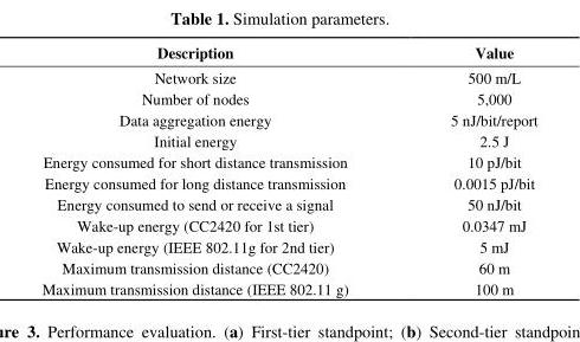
<table><thead><tr><td>Description</td><td>Value</td></tr></thead><tbody><tr><td>Network size</td><td>500 m/L</td></tr><tr><td>Number of nodes</td><td>5,000</td></tr><tr><td>Data aggregation energy</td><td>5 nJ/bit/report</td></tr><tr><td>Initial energy</td><td>2.5 J</td></tr><tr><td>Energy consumed for short distance transmission</td><td>10 pJ/bit</td></tr><tr><td>Energy consumed for long distance transmission</td><td>0.0015 pJ/bit</td></tr><tr><td>Energy consumed to send or receive a signal</td><td>50 nJ/bit</td></tr><tr><td>Wake-up energy (CC2420 for 1st tier)</td><td>0.0347 mJ</td></tr><tr><td>Wake-up energy (IEEE 802.11g for 2nd tier)</td><td>5 mJ</td></tr><tr><td>Maximum transmission distance (CC2420)</td><td>60 m</td></tr><tr><td>Maximum transmission distance (IEEE 802.11 g)</td><td>100 m</td></tr></tbody></table>